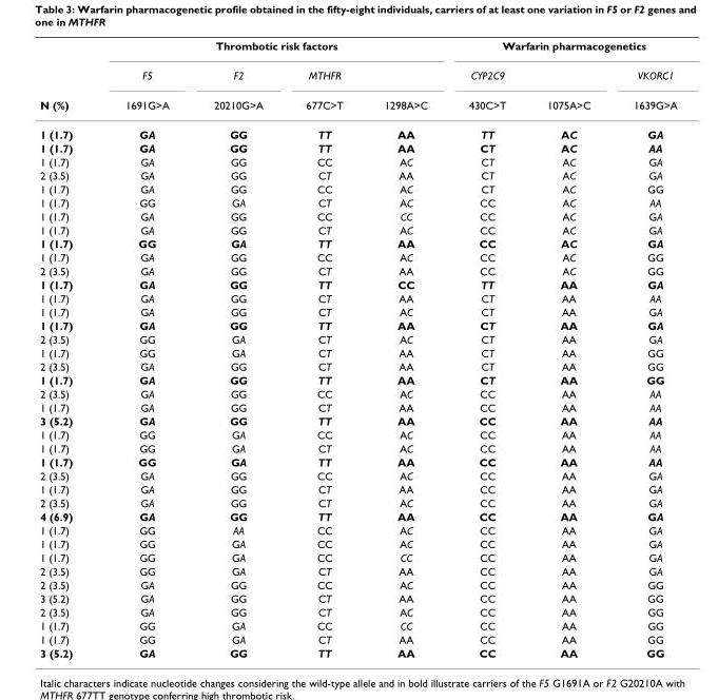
<table><thead><tr><td rowspan="3">N (%)</td><td colspan="4">Thrombotic risk factors</td><td colspan="3">Warfarin pharmacogenetics</td></tr><tr><td rowspan="2">F5 1691G&gt;A</td><td rowspan="2">F2 20210G&gt;A</td><td rowspan="2">MTHFR 677C&gt;T</td><td rowspan="2">1298A&gt;C</td><td rowspan="2">CYP2C9 430C&gt;T</td><td rowspan="2">1075A&gt;C</td><td rowspan="2">VKORC1 1639G&gt;A</td></tr><tr></tr></thead><tbody><tr><td>1 (1.7)</td><td>GA</td><td>GG</td><td>TT</td><td>AA</td><td>TT</td><td>AC</td><td>GA</td></tr><tr><td>1 (1.7)</td><td>GA</td><td>GG</td><td>TT</td><td>AA</td><td>CT</td><td>AC</td><td>AA</td></tr><tr><td>1 (1.7)</td><td>GA</td><td>GG</td><td>CC</td><td>AC</td><td>CT</td><td>AC</td><td>GA</td></tr><tr><td>2 (3.5)</td><td>GA</td><td>GG</td><td>CT</td><td>AA</td><td>CT</td><td>AC</td><td>GA</td></tr><tr><td>1 (1.7)</td><td>GA</td><td>GG</td><td>CC</td><td>AC</td><td>CT</td><td>AC</td><td>GG</td></tr><tr><td>1 (1.7)</td><td>GG</td><td>GA</td><td>CT</td><td>AC</td><td>CC</td><td>AC</td><td>AA</td></tr><tr><td>1 (1.7)</td><td>GA</td><td>GG</td><td>CC</td><td>CC</td><td>CC</td><td>AC</td><td>GA</td></tr><tr><td>1 (1.7)</td><td>GA</td><td>GG</td><td>CT</td><td>AC</td><td>CC</td><td>AC</td><td>GA</td></tr><tr><td>1 (1.7)</td><td>GG</td><td>GA</td><td>TT</td><td>AA</td><td>CC</td><td>AC</td><td>GA</td></tr><tr><td>1 (1.7)</td><td>GA</td><td>GG</td><td>CC</td><td>AC</td><td>CC</td><td>AC</td><td>GG</td></tr><tr><td>2 (3.5)</td><td>GA</td><td>GG</td><td>CT</td><td>AA</td><td>CC</td><td>AC</td><td>GG</td></tr><tr><td>1 (1.7)</td><td>GA</td><td>GG</td><td>TT</td><td>CC</td><td>TT</td><td>AA</td><td>GA</td></tr><tr><td>1 (1.7)</td><td>GA</td><td>GG</td><td>CT</td><td>AA</td><td>CT</td><td>AA</td><td>AA</td></tr><tr><td>1 (1.7)</td><td>GA</td><td>GG</td><td>CT</td><td>AC</td><td>CT</td><td>AA</td><td>GA</td></tr><tr><td>1 (1.7)</td><td>GA</td><td>GG</td><td>TT</td><td>AA</td><td>CT</td><td>AA</td><td>GA</td></tr><tr><td>2 (3.5)</td><td>GG</td><td>GA</td><td>CT</td><td>AC</td><td>CT</td><td>AA</td><td>GA</td></tr><tr><td>1 (1.7)</td><td>GG</td><td>GA</td><td>CT</td><td>AA</td><td>CT</td><td>AA</td><td>GG</td></tr><tr><td>2 (3.5)</td><td>GA</td><td>GG</td><td>CT</td><td>AA</td><td>CT</td><td>AA</td><td>GG</td></tr><tr><td>1 (1.7)</td><td>GA</td><td>GG</td><td>TT</td><td>AA</td><td>CT</td><td>AA</td><td>GG</td></tr><tr><td>2 (3.5)</td><td>GA</td><td>GG</td><td>CC</td><td>AC</td><td>CC</td><td>AA</td><td>AA</td></tr><tr><td>1 (1.7)</td><td>GA</td><td>GG</td><td>CT</td><td>AA</td><td>CC</td><td>AA</td><td>AA</td></tr><tr><td>3 (5.2)</td><td>GA</td><td>GG</td><td>TT</td><td>AA</td><td>CC</td><td>AA</td><td>AA</td></tr><tr><td>1 (1.7)</td><td>GG</td><td>GA</td><td>CC</td><td>AC</td><td>CC</td><td>AA</td><td>AA</td></tr><tr><td>1 (1.7)</td><td>GG</td><td>GA</td><td>CT</td><td>AC</td><td>CC</td><td>AA</td><td>AA</td></tr><tr><td>1 (1.7)</td><td>GG</td><td>GA</td><td>TT</td><td>AA</td><td>CC</td><td>AA</td><td>AA</td></tr><tr><td>2 (3.5)</td><td>GA</td><td>GG</td><td>CC</td><td>AC</td><td>CC</td><td>AA</td><td>GA</td></tr><tr><td>1 (1.7)</td><td>GA</td><td>GG</td><td>CT</td><td>AA</td><td>CC</td><td>AA</td><td>GA</td></tr><tr><td>2 (3.5)</td><td>GA</td><td>GG</td><td>CT</td><td>AC</td><td>CC</td><td>AA</td><td>GA</td></tr><tr><td>4 (6.9)</td><td>GA</td><td>GG</td><td>TT</td><td>AA</td><td>CC</td><td>AA</td><td>GA</td></tr><tr><td>1 (1.7)</td><td>GG</td><td>AA</td><td>CC</td><td>AC</td><td>CC</td><td>AA</td><td>GA</td></tr><tr><td>1 (1.7)</td><td>GG</td><td>GA</td><td>CC</td><td>AC</td><td>CC</td><td>AA</td><td>GA</td></tr><tr><td>1 (1.7)</td><td>GG</td><td>GA</td><td>CC</td><td>CC</td><td>CC</td><td>AA</td><td>GA</td></tr><tr><td>2 (3.5)</td><td>GG</td><td>GA</td><td>CT</td><td>AA</td><td>CC</td><td>AA</td><td>GA</td></tr><tr><td>2 (3.5)</td><td>GA</td><td>GG</td><td>CC</td><td>AC</td><td>CC</td><td>AA</td><td>GG</td></tr><tr><td>3 (5.2)</td><td>GA</td><td>GG</td><td>CT</td><td>AA</td><td>CC</td><td>AA</td><td>GG</td></tr><tr><td>2 (3.5)</td><td>GA</td><td>GG</td><td>CT</td><td>AC</td><td>CC</td><td>AA</td><td>GG</td></tr><tr><td>1 (1.7)</td><td>GG</td><td>GA</td><td>CC</td><td>CC</td><td>CC</td><td>AA</td><td>GG</td></tr><tr><td>1 (1.7)</td><td>GG</td><td>GA</td><td>CT</td><td>AA</td><td>CC</td><td>AA</td><td>GG</td></tr><tr><td>3 (5.2)</td><td>GA</td><td>GG</td><td>TT</td><td>AA</td><td>CC</td><td>AA</td><td>GG</td></tr></tbody></table>